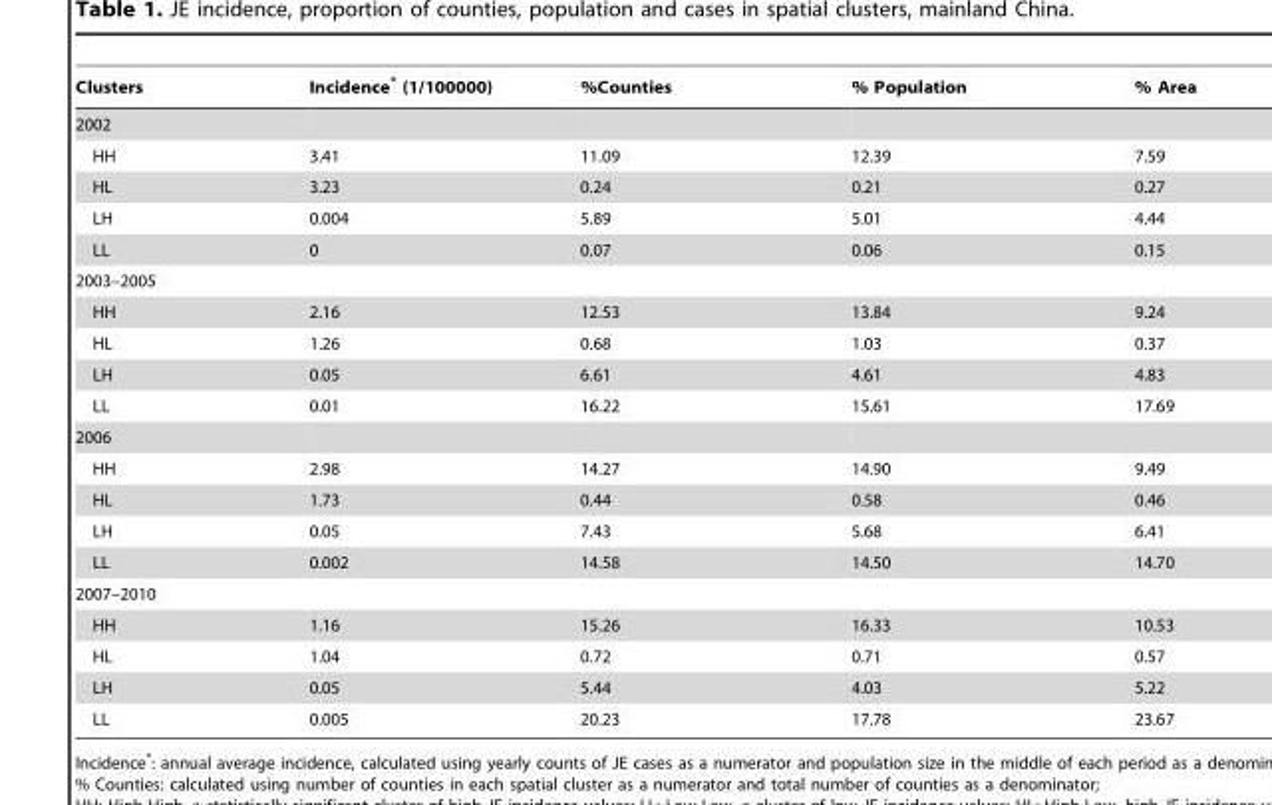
<table><thead><tr><td>Clusters</td><td>Incidence* (1/100000)</td><td>%Counties</td><td>% Population</td><td>% Area</td></tr></thead><tbody><tr><td colspan="5">2002</td></tr><tr><td>HH</td><td>3.41</td><td>11.09</td><td>12.39</td><td>7.59</td></tr><tr><td>HL</td><td>3.23</td><td>0.24</td><td>0.21</td><td>0.27</td></tr><tr><td>LH</td><td>0.004</td><td>5.89</td><td>5.01</td><td>4.44</td></tr><tr><td>LL</td><td>0</td><td>0.07</td><td>0.06</td><td>0.15</td></tr><tr><td colspan="5">2003–2005</td></tr><tr><td>HH</td><td>2.16</td><td>12.53</td><td>13.84</td><td>9.24</td></tr><tr><td>HL</td><td>1.26</td><td>0.68</td><td>1.03</td><td>0.37</td></tr><tr><td>LH</td><td>0.05</td><td>6.61</td><td>4.61</td><td>4.83</td></tr><tr><td>LL</td><td>0.01</td><td>16.22</td><td>15.61</td><td>17.69</td></tr><tr><td colspan="5">2006</td></tr><tr><td>HH</td><td>2.98</td><td>14.27</td><td>14.90</td><td>9.49</td></tr><tr><td>HL</td><td>1.73</td><td>0.44</td><td>0.58</td><td>0.46</td></tr><tr><td>LH</td><td>0.05</td><td>7.43</td><td>5.68</td><td>6.41</td></tr><tr><td>LL</td><td>0.002</td><td>14.58</td><td>14.50</td><td>14.70</td></tr><tr><td colspan="5">2007–2010</td></tr><tr><td>HH</td><td>1.16</td><td>15.26</td><td>16.33</td><td>10.53</td></tr><tr><td>HL</td><td>1.04</td><td>0.72</td><td>0.71</td><td>0.57</td></tr><tr><td>LH</td><td>0.05</td><td>5.44</td><td>4.03</td><td>5.22</td></tr><tr><td>LL</td><td>0.005</td><td>20.23</td><td>17.78</td><td>23.67</td></tr></tbody></table>